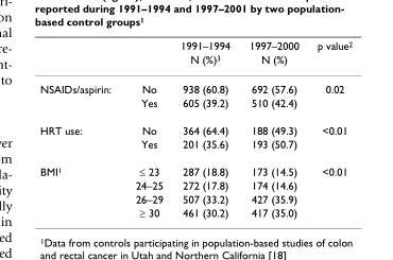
<table><thead><tr><td rowspan="2"></td><td rowspan="2"></td><td rowspan="2">1991–1994 N (%)<sup>3</sup></td><td rowspan="2">1997–2000 N (%)</td><td rowspan="2">p value<sup>2</sup></td></tr><tr></tr></thead><tbody><tr><td rowspan="2">NSAIDs/aspirin:</td><td>No</td><td>938 (60.8)</td><td>692 (57.6)</td><td>0.02</td></tr><tr><td>Yes</td><td>605 (39.2)</td><td>510 (42.4)</td><td></td></tr><tr><td rowspan="2">HRT use:</td><td>No</td><td>364 (64.4)</td><td>188 (49.3)</td><td>&lt;0.01</td></tr><tr><td>Yes</td><td>201 (35.6)</td><td>193 (50.7)</td><td></td></tr><tr><td rowspan="4">BMI<sup>1</sup></td><td>≤ 23</td><td>287 (18.8)</td><td>173 (14.5)</td><td>&lt;0.01</td></tr><tr><td>24–25</td><td>272 (17.8)</td><td>174 (14.6)</td><td></td></tr><tr><td>26–29</td><td>507 (33.2)</td><td>427 (35.9)</td><td></td></tr><tr><td>≥ 30</td><td>461 (30.2)</td><td>417 (35.0)</td><td></td></tr></tbody></table>